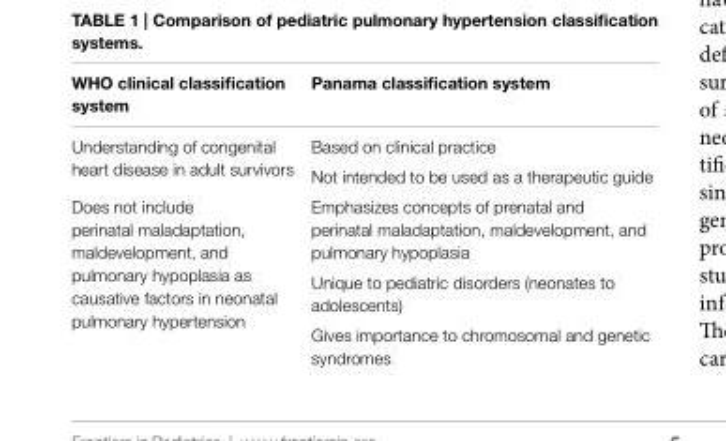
<table><thead><tr><td>wHO clinical classification system</td><td>Panama classification system</td></tr></thead><tbody><tr><td rowspan="2">Understanding of congenital heart disease in adult survivors</td><td>Based on clinical practice</td></tr><tr><td>Not intended to be used as a therapeutic guide</td></tr><tr><td rowspan="3">Does not include perinatal maladaptation, maldevelopment, and pulmonary hypoplasia as causative factors in neonatal pulmonary hypertension</td><td>Emphasizes concepts of prenatal and perinatal maladaptation, maldevelopment, and pulmonary hypoplasia</td></tr><tr><td>Unique to pediatric disorders (neonates to adolescents)</td></tr><tr><td>Gives importance to chromosomal and genetic syndromes</td></tr></tbody></table>